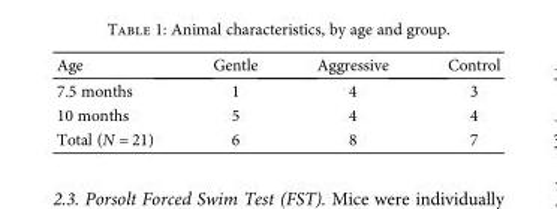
<table><thead><tr><td>Age</td><td>Gentle</td><td>Aggressive</td><td>Control</td></tr></thead><tbody><tr><td>7.5 months</td><td>1</td><td>4</td><td>3</td></tr><tr><td>10 months</td><td>5</td><td>4</td><td>4</td></tr><tr><td>Total (N = 21)</td><td>6</td><td>8</td><td>7</td></tr></tbody></table>